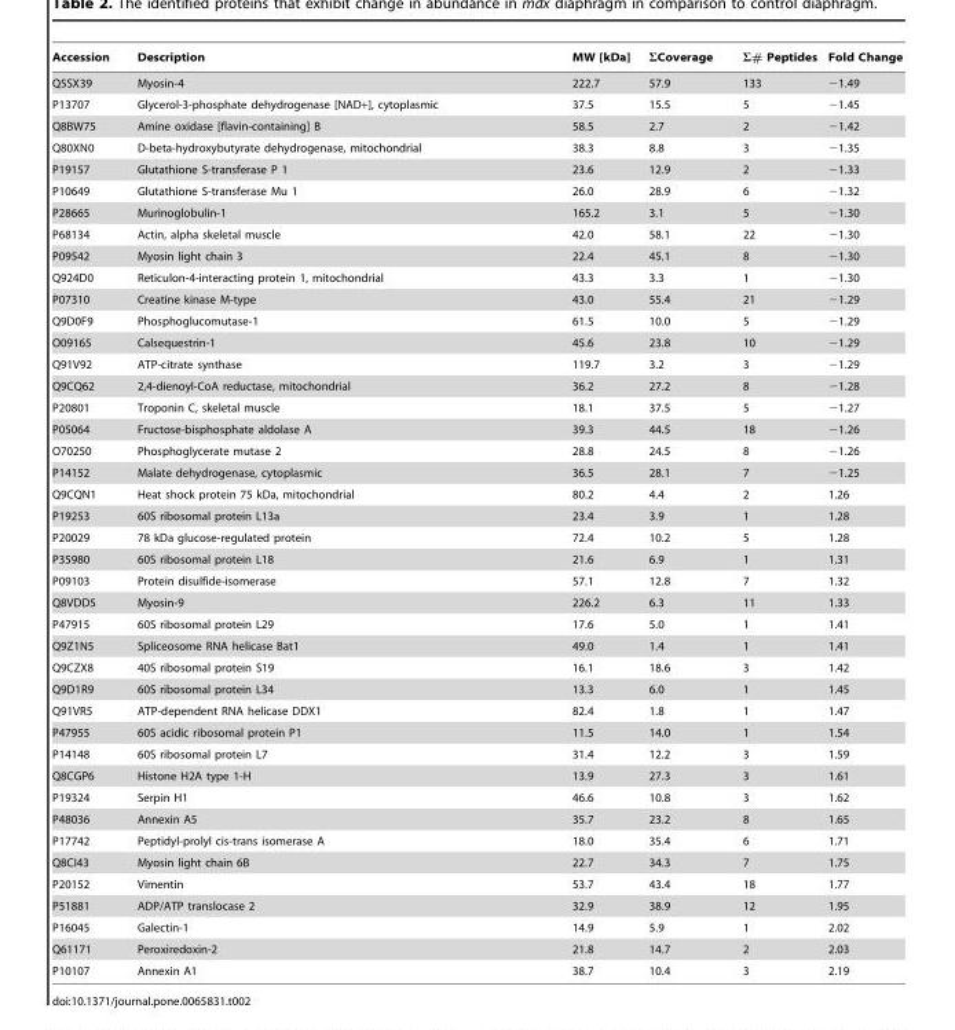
<table><thead><tr><td>Accession</td><td>Description</td><td>MW [kDa]</td><td>ΣCoverage</td><td>Σ# Peptides</td><td>Fold Change</td></tr></thead><tbody><tr><td>Q5SX39</td><td>Myosin-4</td><td>222.7</td><td>57.9</td><td>133</td><td>−1.49</td></tr><tr><td>P13707</td><td>Glycerol-3-phosphate dehydrogenase [NAD+], cytoplasmic</td><td>37.5</td><td>15.5</td><td>5</td><td>−1.45</td></tr><tr><td>Q8BW75</td><td>Amine oxidase [flavin-containing] B</td><td>58.5</td><td>2.7</td><td>2</td><td>−1.42</td></tr><tr><td>Q80XN0</td><td>D-beta-hydroxybutyrate dehydrogenase, mitochondrial</td><td>38.3</td><td>8.8</td><td>3</td><td>−1.35</td></tr><tr><td>P19157</td><td>Glutathione S-transferase P 1</td><td>23.6</td><td>12.9</td><td>2</td><td>−1.33</td></tr><tr><td>P10649</td><td>Glutathione S-transferase Mu 1</td><td>26.0</td><td>28.9</td><td>6</td><td>−1.32</td></tr><tr><td>P28665</td><td>Murinoglobulin-1</td><td>165.2</td><td>3.1</td><td>5</td><td>−1.30</td></tr><tr><td>P68134</td><td>Actin, alpha skeletal muscle</td><td>42.0</td><td>58.1</td><td>22</td><td>−1.30</td></tr><tr><td>P09542</td><td>Myosin light chain 3</td><td>22.4</td><td>45.1</td><td>8</td><td>−1.30</td></tr><tr><td>Q924D0</td><td>Reticulon-4-interacting protein 1, mitochondrial</td><td>43.3</td><td>3.3</td><td>1</td><td>−1.30</td></tr><tr><td>P07310</td><td>Creatine kinase M-type</td><td>43.0</td><td>55.4</td><td>21</td><td>−1.29</td></tr><tr><td>Q9D0F9</td><td>Phosphoglucomutase-1</td><td>61.5</td><td>10.0</td><td>5</td><td>−1.29</td></tr><tr><td>O09165</td><td>Calsequestrin-1</td><td>45.6</td><td>23.8</td><td>10</td><td>−1.29</td></tr><tr><td>Q91V92</td><td>ATP-citrate synthase</td><td>119.7</td><td>3.2</td><td>3</td><td>−1.29</td></tr><tr><td>Q9CQ62</td><td>2,4-dienoyl-CoA reductase, mitochondrial</td><td>36.2</td><td>27.2</td><td>8</td><td>−1.28</td></tr><tr><td>P20801</td><td>Troponin C, skeletal muscle</td><td>18.1</td><td>37.5</td><td>5</td><td>−1.27</td></tr><tr><td>P05064</td><td>Fructose-bisphosphate aldolase A</td><td>39.3</td><td>44.5</td><td>18</td><td>−1.26</td></tr><tr><td>O70250</td><td>Phosphoglycerate mutase 2</td><td>28.8</td><td>24.5</td><td>8</td><td>−1.26</td></tr><tr><td>P14152</td><td>Malate dehydrogenase, cytoplasmic</td><td>36.5</td><td>28.1</td><td>7</td><td>−1.25</td></tr><tr><td>Q9CQN1</td><td>Heat shock protein 75 kDa, mitochondrial</td><td>80.2</td><td>4.4</td><td>2</td><td>1.26</td></tr><tr><td>P19253</td><td>60S ribosomal protein L13a</td><td>23.4</td><td>3.9</td><td>1</td><td>1.28</td></tr><tr><td>P20029</td><td>78 kDa glucose-regulated protein</td><td>72.4</td><td>10.2</td><td>5</td><td>1.28</td></tr><tr><td>P35980</td><td>60S ribosomal protein L18</td><td>21.6</td><td>6.9</td><td>1</td><td>1.31</td></tr><tr><td>P09103</td><td>Protein disulfide-isomerase</td><td>57.1</td><td>12.8</td><td>7</td><td>1.32</td></tr><tr><td>Q8VDD5</td><td>Myosin-9</td><td>226.2</td><td>6.3</td><td>11</td><td>1.33</td></tr><tr><td>P47915</td><td>60S ribosomal protein L29</td><td>17.6</td><td>5.0</td><td>1</td><td>1.41</td></tr><tr><td>Q9Z1N5</td><td>Spliceosome RNA helicase Bat1</td><td>49.0</td><td>1.4</td><td>1</td><td>1.41</td></tr><tr><td>Q9CZX8</td><td>40S ribosomal protein S19</td><td>16.1</td><td>18.6</td><td>3</td><td>1.42</td></tr><tr><td>Q9D1R9</td><td>60S ribosomal protein L34</td><td>13.3</td><td>6.0</td><td>1</td><td>1.45</td></tr><tr><td>Q91VR5</td><td>ATP-dependent RNA helicase DDX1</td><td>82.4</td><td>1.8</td><td>1</td><td>1.47</td></tr><tr><td>P47955</td><td>60S acidic ribosomal protein P1</td><td>11.5</td><td>14.0</td><td>1</td><td>1.54</td></tr><tr><td>P14148</td><td>60S ribosomal protein L7</td><td>31.4</td><td>12.2</td><td>3</td><td>1.59</td></tr><tr><td>Q8CGP6</td><td>Histone H2A type 1-H</td><td>13.9</td><td>27.3</td><td>3</td><td>1.61</td></tr><tr><td>P19324</td><td>Serpin H1</td><td>46.6</td><td>10.8</td><td>3</td><td>1.62</td></tr><tr><td>P48036</td><td>Annexin A5</td><td>35.7</td><td>23.2</td><td>8</td><td>1.65</td></tr><tr><td>P17742</td><td>Peptidyl-prolyl cis-trans isomerase A</td><td>18.0</td><td>35.4</td><td>6</td><td>1.71</td></tr><tr><td>Q8CI43</td><td>Myosin light chain 6B</td><td>22.7</td><td>34.3</td><td>7</td><td>1.75</td></tr><tr><td>P20152</td><td>Vimentin</td><td>53.7</td><td>43.4</td><td>18</td><td>1.77</td></tr><tr><td>P51881</td><td>ADP/ATP translocase 2</td><td>32.9</td><td>38.9</td><td>12</td><td>1.95</td></tr><tr><td>P16045</td><td>Galectin-1</td><td>14.9</td><td>5.9</td><td>1</td><td>2.02</td></tr><tr><td>Q61171</td><td>Peroxiredoxin-2</td><td>21.8</td><td>14.7</td><td>2</td><td>2.03</td></tr><tr><td>P10107</td><td>Annexin A1</td><td>38.7</td><td>10.4</td><td>3</td><td>2.19</td></tr></tbody></table>